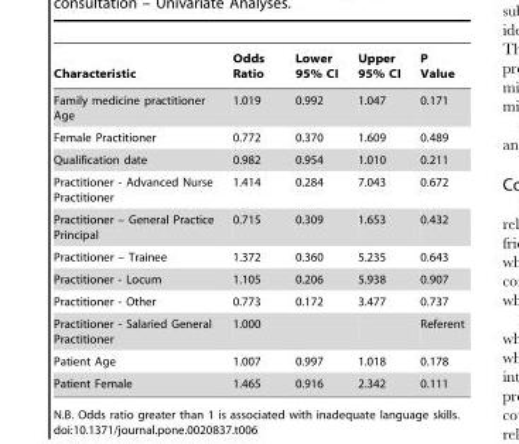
<table><thead><tr><td>Characteristic</td><td>Odds Ratio</td><td>Lower 95% CI</td><td>Upper 95% CI</td><td>P Value</td></tr></thead><tbody><tr><td>Family medicine practitioner Age</td><td>1.019</td><td>0.992</td><td>1.047</td><td>0.171</td></tr><tr><td>Female Practitioner</td><td>0.772</td><td>0.370</td><td>1.609</td><td>0.489</td></tr><tr><td>Qualification date</td><td>0.982</td><td>0.954</td><td>1.010</td><td>0.211</td></tr><tr><td>Practitioner - Advanced Nurse Practitioner</td><td>1.414</td><td>0.284</td><td>7.043</td><td>0.672</td></tr><tr><td>Practitioner – General Practice Principal</td><td>0.715</td><td>0.309</td><td>1.653</td><td>0.432</td></tr><tr><td>Practitioner – Trainee</td><td>1.372</td><td>0.360</td><td>5.235</td><td>0.643</td></tr><tr><td>Practitioner - Locum</td><td>1.105</td><td>0.206</td><td>5.938</td><td>0.907</td></tr><tr><td>Practitioner - Other</td><td>0.773</td><td>0.172</td><td>3.477</td><td>0.737</td></tr><tr><td>Practitioner - Salaried General Practitioner</td><td>1.000</td><td></td><td></td><td>Referent</td></tr><tr><td>Patient Age</td><td>1.007</td><td>0.997</td><td>1.018</td><td>0.178</td></tr><tr><td>Patient Female</td><td>1.465</td><td>0.916</td><td>2.342</td><td>0.111</td></tr></tbody></table>